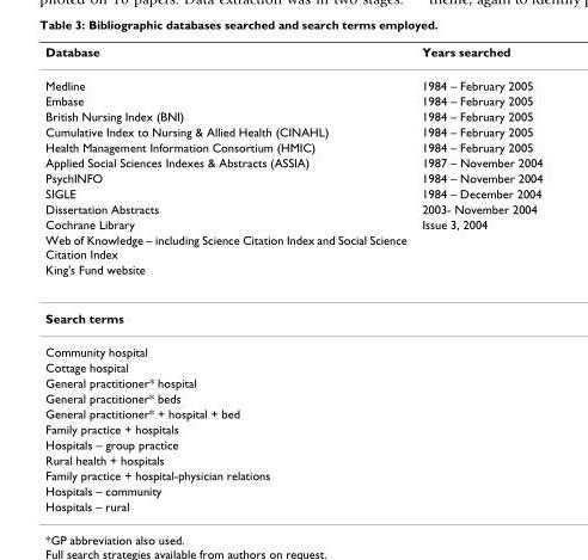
<table><thead><tr><td>Database</td><td>Years searched</td></tr></thead><tbody><tr><td>Medline</td><td>1984 – February 2005</td></tr><tr><td>Embase</td><td>1984 – February 2005</td></tr><tr><td>British Nursing Index (BNI)</td><td>1984 – February 2005</td></tr><tr><td>Cumulative Index to Nursing &amp; Allied Health (CINAHL)</td><td>1984 – February 2005</td></tr><tr><td>Health Management Information Consortium (HMIC)</td><td>1984 – February 2005</td></tr><tr><td>Applied Social Sciences Indexes &amp; Abstracts (ASSIA)</td><td>1987 – November 2004</td></tr><tr><td>PsychINFO</td><td>1984 – November 2004</td></tr><tr><td>SIGLE</td><td>1984 – December 2004</td></tr><tr><td>Dissertation Abstracts</td><td>2003- November 2004</td></tr><tr><td>Cochrane Library</td><td>Issue 3, 2004</td></tr><tr><td colspan="2">Web of Knowledge – including Science Citation Index and Social Science Citation Index</td></tr><tr><td colspan="2">King&#x27;s Fund website</td></tr><tr><td colspan="2">Search terms</td></tr><tr><td colspan="2">Community hospital</td></tr><tr><td colspan="2">Cottage hospital</td></tr><tr><td colspan="2">General practitioner* hospital</td></tr><tr><td colspan="2">General practitioner* beds</td></tr><tr><td colspan="2">General practitioner* + hospital + bed</td></tr><tr><td colspan="2">Family practice + hospitals</td></tr><tr><td colspan="2">Hospitals – group practice</td></tr><tr><td colspan="2">Rural health + hospitals</td></tr><tr><td colspan="2">Family practice + hospital-physician relations</td></tr><tr><td colspan="2">Hospitals – community</td></tr><tr><td>Hospitals – rural</td><td></td></tr></tbody></table>